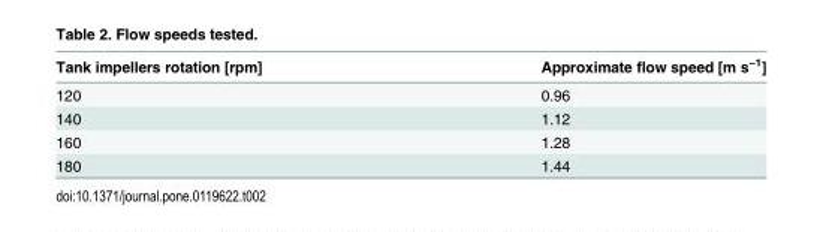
<table><thead><tr><td>Tank impellers rotation [rpm]</td><td>Approximate flow speed [m s<sup>−1</sup>]</td></tr></thead><tbody><tr><td>120</td><td>0.96</td></tr><tr><td>140</td><td>1.12</td></tr><tr><td>160</td><td>1.28</td></tr><tr><td>180</td><td>1.44</td></tr></tbody></table>